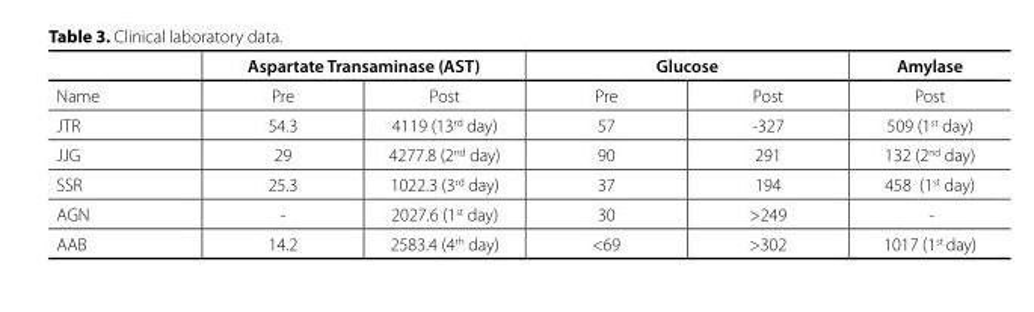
<table><thead><tr><td rowspan="2">Name</td><td colspan="2">Aspartate Transaminase (AST)</td><td colspan="2">Glucose</td><td rowspan="2">Amylase Post</td></tr><tr><td>Pre</td><td>Post</td><td>Pre</td><td>Post</td></tr></thead><tbody><tr><td>JTR</td><td>54.3</td><td>4119 (13<sup>rd</sup> day)</td><td>57</td><td>-327</td><td>509 (1<sup>st</sup> day)</td></tr><tr><td>JJG</td><td>29</td><td>4277.8 (2<sup>nd</sup> day)</td><td>90</td><td>291</td><td>132 (2<sup>nd</sup> day)</td></tr><tr><td>SSR</td><td>25.3</td><td>1022.3 (3<sup>rd</sup> day)</td><td>37</td><td>194</td><td>458 (1<sup>st</sup> day)</td></tr><tr><td>AGN</td><td>-</td><td>2027.6 (1<sup>st</sup> day)</td><td>30</td><td>&gt;249</td><td>-</td></tr><tr><td>AAB</td><td>14.2</td><td>2583.4 (4<sup>rh</sup> day)</td><td>&lt;69</td><td>&gt;302</td><td>1017 (1<sup>st</sup> day)</td></tr></tbody></table>